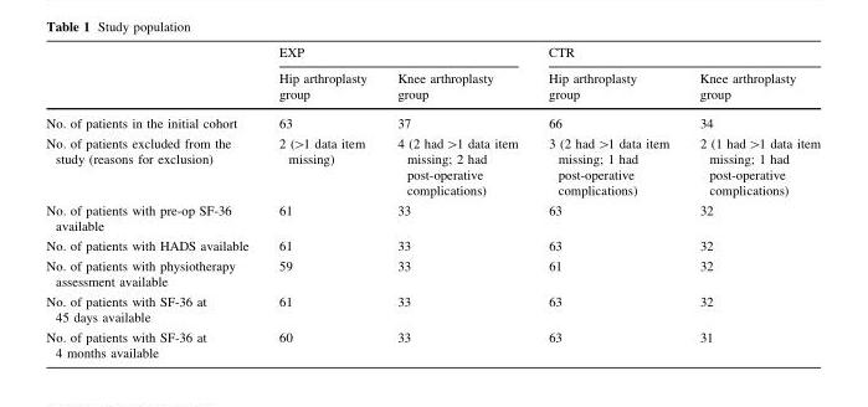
<table><thead><tr><td rowspan="2"></td><td colspan="2">EXP</td><td colspan="2">CTR</td></tr><tr><td>Hip arthroplasty group</td><td>Knee arthroplasty group</td><td>Hip arthroplasty group</td><td>Knee arthroplasty group</td></tr></thead><tbody><tr><td>No. of patients in the initial cohort</td><td>63</td><td>37</td><td>66</td><td>34</td></tr><tr><td>No. of patients excluded from the study (reasons for exclusion)</td><td>2 (&gt;1 data item missing)</td><td>4 (2 had &gt;1 data item missing; 2 had post-operative complications)</td><td>3 (2 had &gt;1 data item missing; 1 had post-operative complications)</td><td>2 (1 had &gt;1 data item missing; 1 had post-operative complications)</td></tr><tr><td>No. of patients with pre-op SF-36 available</td><td>61</td><td>33</td><td>63</td><td>32</td></tr><tr><td>No. of patients with HADS available</td><td>61</td><td>33</td><td>63</td><td>32</td></tr><tr><td>No. of patients with physiotherapy assessment available</td><td>59</td><td>33</td><td>61</td><td>32</td></tr><tr><td>No. of patients with SF-36 at 45 days available</td><td>61</td><td>33</td><td>63</td><td>32</td></tr><tr><td>No. of patients with SF-36 at 4 months available</td><td>60</td><td>33</td><td>63</td><td>31</td></tr></tbody></table>